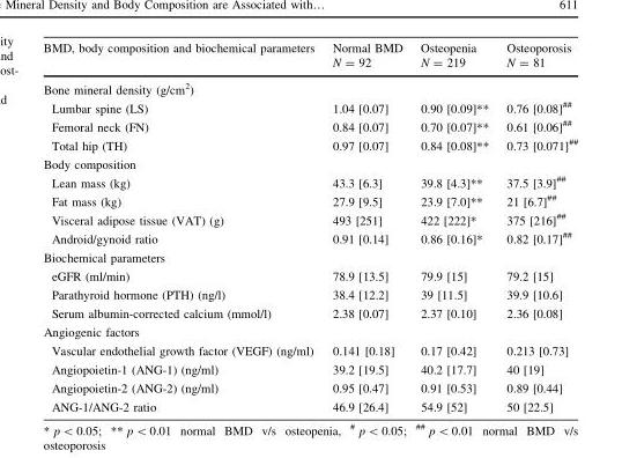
<table><thead><tr><td>BMD, body composition and biochemical parameters</td><td>Normal BMD N = 92</td><td>Osteopenia N = 219</td><td>Osteoporosis N = 81</td></tr></thead><tbody><tr><td colspan="4">Bone mineral density (g/cm<sup>2</sup>)</td></tr><tr><td>Lumbar spine (LS)</td><td>1.04 [0.07]</td><td>0.90 [0.09]**</td><td>0.76 [0.08]<sup>##</sup></td></tr><tr><td>Femoral neck (FN)</td><td>0.84 [0.07]</td><td>0.70 [0.07]**</td><td>0.61 [0.06]<sup>##</sup></td></tr><tr><td>Total hip (TH)</td><td>0.97 [0.07]</td><td>0.84 [0.08]**</td><td>0.73 [0.071]<sup>##</sup></td></tr><tr><td colspan="4">Body composition</td></tr><tr><td>Lean mass (kg)</td><td>43.3 [6.3]</td><td>39.8 [4.3]**</td><td>37.5 [3.9]<sup>##</sup></td></tr><tr><td>Fat mass (kg)</td><td>27.9 [9.5]</td><td>23.9 [7.0]**</td><td>21 [6.7]<sup>##</sup></td></tr><tr><td>Visceral adipose tissue (VAT) (g)</td><td>493 [251]</td><td>422 [222]*</td><td>375 [216]<sup>##</sup></td></tr><tr><td>Android/gynoid ratio</td><td>0.91 [0.14]</td><td>0.86 [0.16]*</td><td>0.82 [0.17]<sup>##</sup></td></tr><tr><td colspan="4">Biochemical parameters</td></tr><tr><td>eGFR (ml/min)</td><td>78.9 [13.5]</td><td>79.9 [15]</td><td>79.2 [15]</td></tr><tr><td>Parathyroid hormone (PTH) (ng/l)</td><td>38.4 [12.2]</td><td>39 [11.5]</td><td>39.9 [10.6]</td></tr><tr><td>Serum albumin-corrected calcium (mmol/l)</td><td>2.38 [0.07]</td><td>2.37 [0.10]</td><td>2.36 [0.08]</td></tr><tr><td colspan="4">Angiogenic factors</td></tr><tr><td>Vascular endothelial growth factor (VEGF) (ng/ml)</td><td>0.141 [0.18]</td><td>0.17 [0.42]</td><td>0.213 [0.73]</td></tr><tr><td>Angiopoietin-1 (ANG-1) (ng/ml)</td><td>39.2 [19.5]</td><td>40.2 [17.7]</td><td>40 [19]</td></tr><tr><td>Angiopoietin-2 (ANG-2) (ng/ml)</td><td>0.95 [0.47]</td><td>0.91 [0.53]</td><td>0.89 [0.44]</td></tr><tr><td>ANG-1/ANG-2 ratio</td><td>46.9 [26.4]</td><td>54.9 [52]</td><td>50 [22.5]</td></tr></tbody></table>